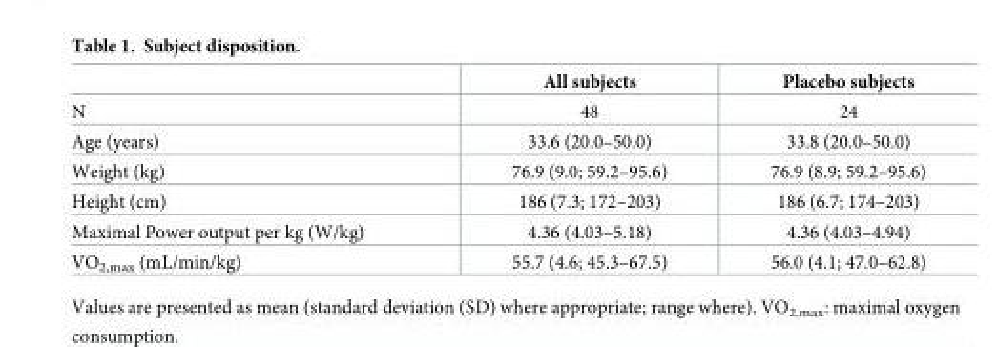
<table><thead><tr><td></td><td>All subjects</td><td>Placebo subjects</td></tr></thead><tbody><tr><td>N</td><td>48</td><td>24</td></tr><tr><td>Age (years)</td><td>33.6 (20.0–50.0)</td><td>33.8 (20.0–50.0)</td></tr><tr><td>Weight (kg)</td><td>76.9 (9.0; 59.2–95.6)</td><td>76.9 (8.9; 59.2–95.6)</td></tr><tr><td>Height (cm)</td><td>186 (7.3; 172–203)</td><td>186 (6.7; 174–203)</td></tr><tr><td>Maximal Power output per kg (W/kg)</td><td>4.36 (4.03–5.18)</td><td>4.36 (4.03–4.94)</td></tr><tr><td>VO<sub>2,max</sub> (mL/min/kg)</td><td>55.7 (4.6; 45.3–67.5)</td><td>56.0 (4.1; 47.0–62.8)</td></tr></tbody></table>